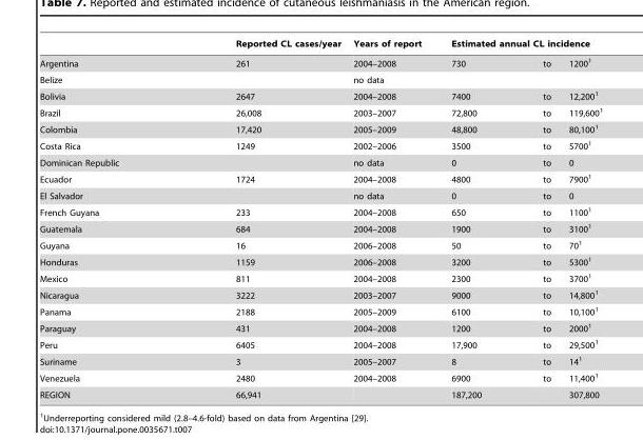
<table><thead><tr><td rowspan="2">Argentina</td><td rowspan="2">Reported CL cases/year 261</td><td rowspan="2">Years of report 2004–2008</td><td colspan="3">Estimated annual CL incidence</td></tr><tr><td>730</td><td>to</td><td>1200<sup>1</sup></td></tr></thead><tbody><tr><td>Belize</td><td></td><td>no data</td><td></td><td></td><td></td></tr><tr><td>Bolivia</td><td>2647</td><td>2004–2008</td><td>7400</td><td>to</td><td>12,200<sup>1</sup></td></tr><tr><td>Brazil</td><td>26,008</td><td>2003–2007</td><td>72,800</td><td>to</td><td>119,600<sup>1</sup></td></tr><tr><td>Colombia</td><td>17,420</td><td>2005–2009</td><td>48,800</td><td>to</td><td>80,100<sup>1</sup></td></tr><tr><td>Costa Rica</td><td>1249</td><td>2002–2006</td><td>3500</td><td>to</td><td>5700<sup>1</sup></td></tr><tr><td>Dominican Republic</td><td></td><td>no data</td><td>0</td><td>to</td><td>0</td></tr><tr><td>Ecuador</td><td>1724</td><td>2004–2008</td><td>4800</td><td>to</td><td>7900<sup>1</sup></td></tr><tr><td>El Salvador</td><td></td><td>no data</td><td>0</td><td>to</td><td>0</td></tr><tr><td>French Guyana</td><td>233</td><td>2004–2008</td><td>650</td><td>to</td><td>1100<sup>1</sup></td></tr><tr><td>Guatemala</td><td>684</td><td>2004–2008</td><td>1900</td><td>to</td><td>3100<sup>1</sup></td></tr><tr><td>Guyana</td><td>16</td><td>2006–2008</td><td>50</td><td>to</td><td>70<sup>1</sup></td></tr><tr><td>Honduras</td><td>1159</td><td>2006–2008</td><td>3200</td><td>to</td><td>5300<sup>1</sup></td></tr><tr><td>Mexico</td><td>811</td><td>2004–2008</td><td>2300</td><td>to</td><td>3700<sup>1</sup></td></tr><tr><td>Nicaragua</td><td>3222</td><td>2003–2007</td><td>9000</td><td>to</td><td>14,800<sup>1</sup></td></tr><tr><td>Panama</td><td>2188</td><td>2005–2009</td><td>6100</td><td>to</td><td>10,100<sup>1</sup></td></tr><tr><td>Paraguay</td><td>431</td><td>2004–2008</td><td>1200</td><td>to</td><td>2000<sup>1</sup></td></tr><tr><td>Peru</td><td>6405</td><td>2004–2008</td><td>17,900</td><td>to</td><td>29,500<sup>1</sup></td></tr><tr><td>Suriname</td><td>3</td><td>2005–2007</td><td>8</td><td>to</td><td>14<sup>1</sup></td></tr><tr><td>Venezuela</td><td>2480</td><td>2004–2008</td><td>6900</td><td>to</td><td>11,400<sup>1</sup></td></tr><tr><td>REGION</td><td>66,941</td><td></td><td>187,200</td><td></td><td>307,800</td></tr></tbody></table>